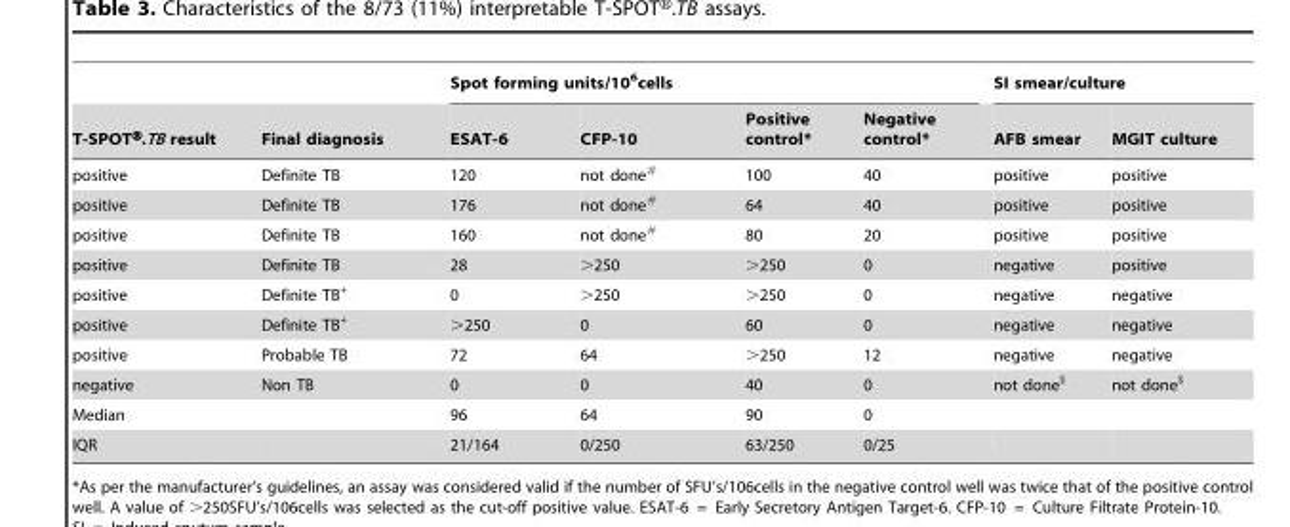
<table><thead><tr><td rowspan="2">T-SPOT®.TB result</td><td rowspan="2">Final diagnosis</td><td colspan="4">Spot forming units/10<sup>6</sup>cells</td><td colspan="2">SI smear/culture</td></tr><tr><td>ESAT-6</td><td>CFP-10</td><td>Positive control*</td><td>Negative control*</td><td>AFB smear</td><td>MGIT culture</td></tr></thead><tbody><tr><td>positive</td><td>Definite TB</td><td>120</td><td>not done#</td><td>100</td><td>40</td><td>positive</td><td>positive</td></tr><tr><td>positive</td><td>Definite TB</td><td>176</td><td>not done#</td><td>64</td><td>40</td><td>positive</td><td>positive</td></tr><tr><td>positive</td><td>Definite TB</td><td>160</td><td>not done#</td><td>80</td><td>20</td><td>positive</td><td>positive</td></tr><tr><td>positive</td><td>Definite TB</td><td>28</td><td>&gt;250</td><td>&gt;250</td><td>0</td><td>negative</td><td>positive</td></tr><tr><td>positive</td><td>Definite TB+</td><td>0</td><td>&gt;250</td><td>&gt;250</td><td>0</td><td>negative</td><td>negative</td></tr><tr><td>positive</td><td>Definite TB+</td><td>&gt;250</td><td>0</td><td>60</td><td>0</td><td>negative</td><td>negative</td></tr><tr><td>positive</td><td>Probable TB</td><td>72</td><td>64</td><td>&gt;250</td><td>12</td><td>negative</td><td>negative</td></tr><tr><td>negative</td><td>Non TB</td><td>0</td><td>0</td><td>40</td><td>0</td><td>not done$</td><td>not done$</td></tr><tr><td>Median</td><td></td><td>96</td><td>64</td><td>90</td><td>0</td><td></td><td></td></tr><tr><td>IQR</td><td></td><td>21/164</td><td>0/250</td><td>63/250</td><td>0/25</td><td></td><td></td></tr></tbody></table>